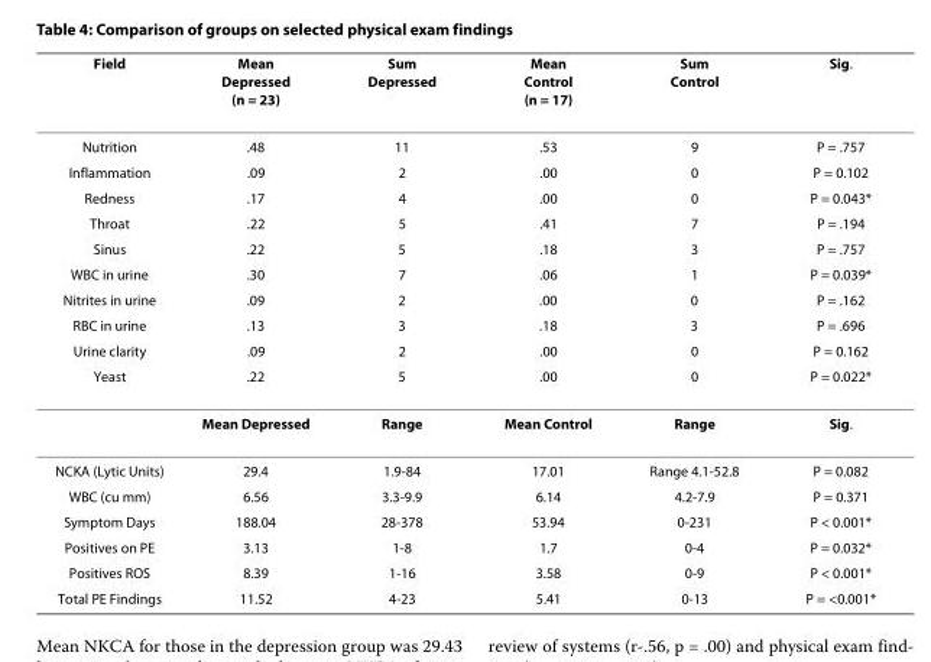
<table><thead><tr><td>Field</td><td>Mean Depressed (n = 23)</td><td>Sum Depressed</td><td>Mean Control (n = 17)</td><td>Sum Control</td><td>Sig.</td></tr></thead><tbody><tr><td>Nutrition</td><td>.48</td><td>11</td><td>.53</td><td>9</td><td>P = .757</td></tr><tr><td>Inflammation</td><td>.09</td><td>2</td><td>.00</td><td>0</td><td>P = 0.102</td></tr><tr><td>Redness</td><td>.17</td><td>4</td><td>.00</td><td>0</td><td>P = 0.043*</td></tr><tr><td>Throat</td><td>.22</td><td>5</td><td>.41</td><td>7</td><td>P = .194</td></tr><tr><td>Sinus</td><td>.22</td><td>5</td><td>.18</td><td>3</td><td>P = .757</td></tr><tr><td>WBC in urine</td><td>.30</td><td>7</td><td>.06</td><td>1</td><td>P = 0.039*</td></tr><tr><td>Nitrites in urine</td><td>.09</td><td>2</td><td>.00</td><td>0</td><td>P = .162</td></tr><tr><td>RBC in urine</td><td>.13</td><td>3</td><td>.18</td><td>3</td><td>P = .696</td></tr><tr><td>Urine clarity</td><td>.09</td><td>2</td><td>.00</td><td>0</td><td>P = 0.162</td></tr><tr><td rowspan="2">Yeast</td><td>.22</td><td>5</td><td>.00</td><td>0</td><td>P = 0.022*</td></tr><tr><td>Mean Depressed</td><td>Range</td><td>Mean Control</td><td>Range</td><td>Sig.</td></tr><tr><td>NCKA (Lytic Units)</td><td>29.4</td><td>1.9-84</td><td>17.01</td><td>Range 4.1-52.8</td><td>P = 0.082</td></tr><tr><td>WBC (cu mm)</td><td>6.56</td><td>3.3-9.9</td><td>6.14</td><td>4.2-7.9</td><td>P = 0.371</td></tr><tr><td>Symptom Days</td><td>188.04</td><td>28-378</td><td>53.94</td><td>0-231</td><td>P &lt; 0.001*</td></tr><tr><td>Positives on PE</td><td>3.13</td><td>1-8</td><td>1.7</td><td>0-4</td><td>P = 0.032*</td></tr><tr><td>Positives ROS</td><td>8.39</td><td>1-16</td><td>3.58</td><td>0-9</td><td>P &lt; 0.001*</td></tr><tr><td>Total PE Findings</td><td>11.52</td><td>4-23</td><td>5.41</td><td>0-13</td><td>P = &lt;0.001*</td></tr></tbody></table>